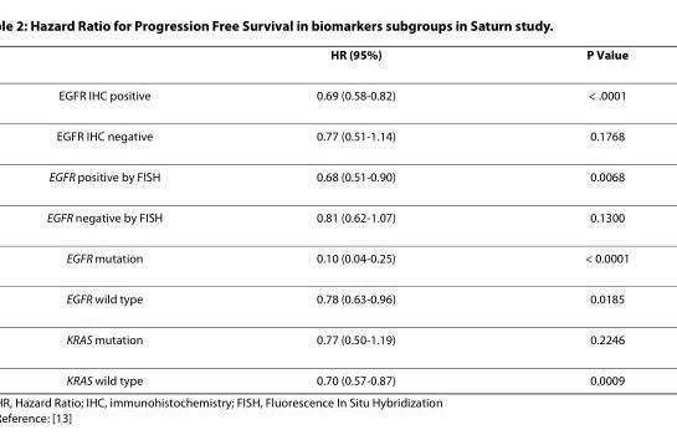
<table><thead><tr><td></td><td>HR (95%)</td><td>P Value</td></tr></thead><tbody><tr><td>EGFR IHC positive</td><td>0.69 (0.58-0.82)</td><td>&lt; .0001</td></tr><tr><td>EGFR IHC negative</td><td>0.77 (0.51-1.14)</td><td>0.1768</td></tr><tr><td>EGFR positive by FISH</td><td>0.68 (0.51-0.90)</td><td>0.0068</td></tr><tr><td>EGFR negative by FISH</td><td>0.81 (0.62-1.07)</td><td>0.1300</td></tr><tr><td>EGFR mutation</td><td>0.10 (0.04-0.25)</td><td>&lt; 0.0001</td></tr><tr><td>EGFR wild type</td><td>0.78 (0.63-0.96)</td><td>0.0185</td></tr><tr><td>KRAS mutation</td><td>0.77 (0.50-1.19)</td><td>0.2246</td></tr><tr><td>KRAS wild type</td><td>0.70 (0.57-0.87)</td><td>0.0009</td></tr></tbody></table>